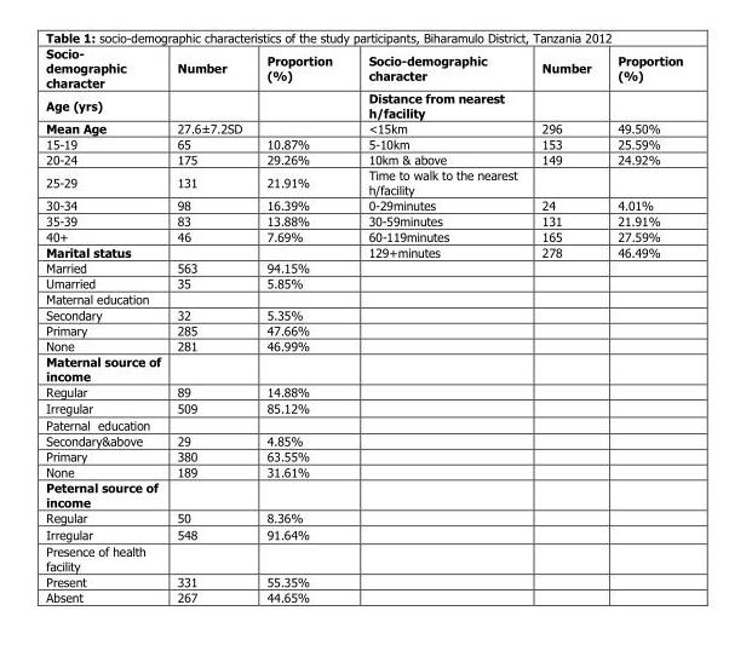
<table><thead><tr><td rowspan="2">Socio- demographic character Age (yrs)</td><td rowspan="2">Number</td><td rowspan="2">Proportion (%)</td><td rowspan="2">Socio-demographic character Distance from nearest h/facility</td><td rowspan="2">Number</td><td rowspan="2">Proportion (%)</td></tr><tr></tr></thead><tbody><tr><td>Mean Age</td><td>27.6±7.2SD</td><td></td><td>&lt;15km</td><td>296</td><td>49.50%</td></tr><tr><td>15-19</td><td>65</td><td>10.87%</td><td>5-10km</td><td>153</td><td>25.59%</td></tr><tr><td>20-24</td><td>175</td><td>29.26%</td><td>10km &amp; above</td><td>149</td><td>24.92%</td></tr><tr><td>25-29</td><td>131</td><td>21.91%</td><td>Time to walk to the nearest h/facility</td><td></td><td></td></tr><tr><td>30-34</td><td>98</td><td>16.39%</td><td>0-29minutes</td><td>24</td><td>4.01%</td></tr><tr><td>35-39</td><td>83</td><td>13.88%</td><td>30-59minutes</td><td>131</td><td>21.91%</td></tr><tr><td>40+</td><td>46</td><td>7.69%</td><td>60-119minutes</td><td>165</td><td>27.59%</td></tr><tr><td>Marital status</td><td></td><td></td><td>129+minutes</td><td>278</td><td>46.49%</td></tr><tr><td>Married</td><td>563</td><td>94.15%</td><td></td><td></td><td></td></tr><tr><td>Umarried</td><td>35</td><td>5.85%</td><td></td><td></td><td></td></tr><tr><td colspan="6">Maternal education</td></tr><tr><td>Secondary</td><td>32</td><td>5.35%</td><td></td><td></td><td></td></tr><tr><td>Primary</td><td>285</td><td>47.66%</td><td></td><td></td><td></td></tr><tr><td>None</td><td>281</td><td>46.99%</td><td></td><td></td><td></td></tr><tr><td colspan="6">Maternal source of income</td></tr><tr><td>Regular</td><td>89</td><td>14.88%</td><td></td><td></td><td></td></tr><tr><td>Irregular</td><td>509</td><td>85.12%</td><td></td><td></td><td></td></tr><tr><td colspan="6">Paternal education</td></tr><tr><td>Secondary&amp;above</td><td>29</td><td>4.85%</td><td></td><td></td><td></td></tr><tr><td>Primary</td><td>380</td><td>63.55%</td><td></td><td></td><td></td></tr><tr><td>None</td><td>189</td><td>31.61%</td><td></td><td></td><td></td></tr><tr><td colspan="6">Peternal source of income</td></tr><tr><td>Regular</td><td>50</td><td>8.36%</td><td></td><td></td><td></td></tr><tr><td>Irregular</td><td>548</td><td>91.64%</td><td></td><td></td><td></td></tr><tr><td colspan="6">Presence of health facility</td></tr><tr><td>Present</td><td>331</td><td>55.35%</td><td></td><td></td><td></td></tr><tr><td>Absent</td><td>267</td><td>44.65%</td><td></td><td></td><td></td></tr></tbody></table>